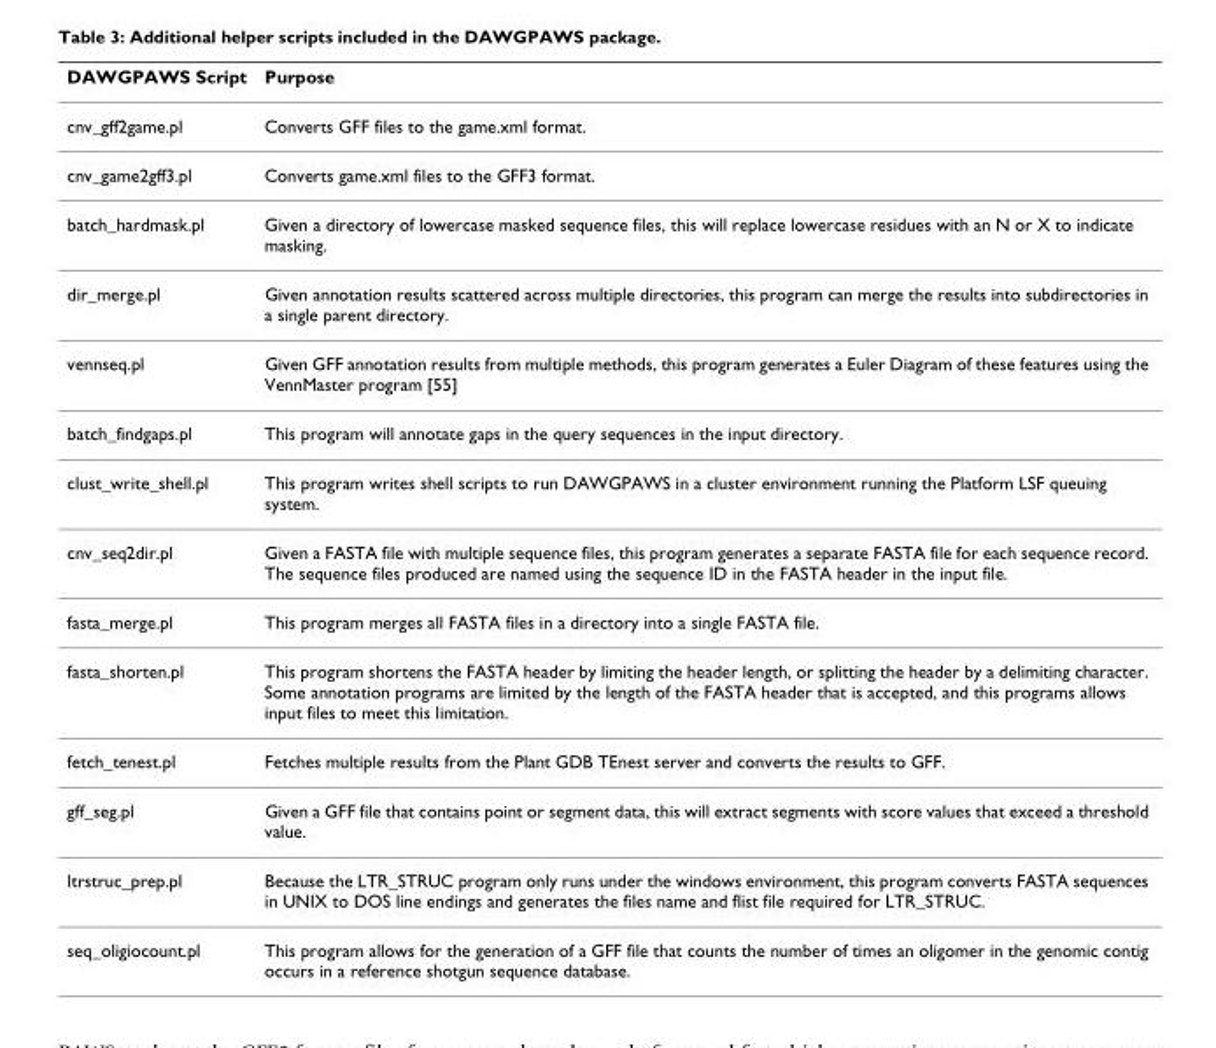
<table><thead><tr><td>DAWGPAWS Script</td><td>Purpose</td></tr></thead><tbody><tr><td>cnv_gff2game.pl</td><td>Converts GFF files to the game.xml format.</td></tr><tr><td>cnv_game2gff3.pl</td><td>Converts game.xml files to the GFF3 format.</td></tr><tr><td>batch_hardmask.pl</td><td>Given a directory of lowercase masked sequence files, this will replace lowercase residues with an N or X to indicate masking.</td></tr><tr><td>dir_merge.pl</td><td>Given annotation results scattered across multiple directories, this program can merge the results into subdirectories in a single parent directory.</td></tr><tr><td>vennseq.pl</td><td>Given GFF annotation results from multiple methods, this program generates a Euler Diagram of these features using the VennMaster program [55]</td></tr><tr><td>batch_findgaps.pl</td><td>This program will annotate gaps in the query sequences in the input directory.</td></tr><tr><td>clust_write_shell.pl</td><td>This program writes shell scripts to run DAWGPAWS in a cluster environment running the Platform LSF queuing system.</td></tr><tr><td>cnv_seq2dir.pl</td><td>Given a FASTA file with multiple sequence files, this program generates a separate FASTA file for each sequence record. The sequence files produced are named using the sequence ID in the FASTA header in the input file.</td></tr><tr><td>fasta_merge.pl</td><td>This program merges all FASTA files in a directory into a single FASTA file.</td></tr><tr><td>fasta_shorten.pl</td><td>This program shortens the FASTA header by limiting the header length, or splitting the header by a delimiting character. Some annotation programs are limited by the length of the FASTA header that is accepted, and this programs allows input files to meet this limitation.</td></tr><tr><td>fetch_tenest.pl</td><td>Fetches multiple results from the Plant GDB TEnest server and converts the results to GFF.</td></tr><tr><td>gff_seg.pl</td><td>Given a GFF file that contains point or segment data, this will extract segments with score values that exceed a threshold value.</td></tr><tr><td>ltrstruc_prep.pl</td><td>Because the LTR_STRUC program only runs under the windows environment, this program converts FASTA sequences in UNIX to DOS line endings and generates the files name and flist file required for LTR_STRUC.</td></tr><tr><td>seq_oligiocount.pl</td><td>This program allows for the generation of a GFF file that counts the number of times an oligomer in the genomic contig occurs in a reference shotgun sequence database.</td></tr></tbody></table>